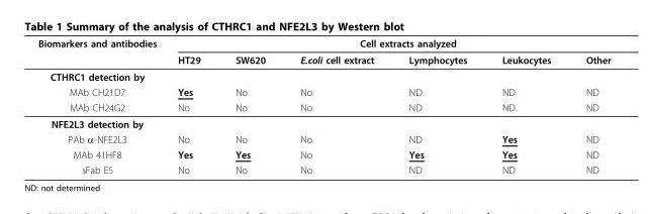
<table><thead><tr><td rowspan="2">Biomarkers and antibodies</td><td colspan="6">Cell extracts analyzed</td></tr><tr><td>HT29</td><td>SW620</td><td>E.coli cell extract</td><td>Lymphocytes</td><td>Leukocytes</td><td>Other</td></tr></thead><tbody><tr><td colspan="7">CTHRC1 detection by</td></tr><tr><td>MAb CH21D7</td><td>Yes</td><td>No</td><td>No</td><td>ND</td><td>ND</td><td>ND</td></tr><tr><td>MAb CH24G2</td><td>No</td><td>No</td><td>No</td><td>ND</td><td>ND</td><td>ND</td></tr><tr><td colspan="7">NFE2L3 detection by</td></tr><tr><td>PAb α-NFE2L3</td><td>No</td><td>No</td><td>No</td><td>ND</td><td>Yes</td><td>ND</td></tr><tr><td>MAb 41HF8</td><td>Yes</td><td>Yes</td><td>No</td><td>Yes</td><td>Yes</td><td>ND</td></tr><tr><td>sFab E5</td><td>No</td><td>No</td><td>No</td><td>ND</td><td>ND</td><td>ND</td></tr></tbody></table>